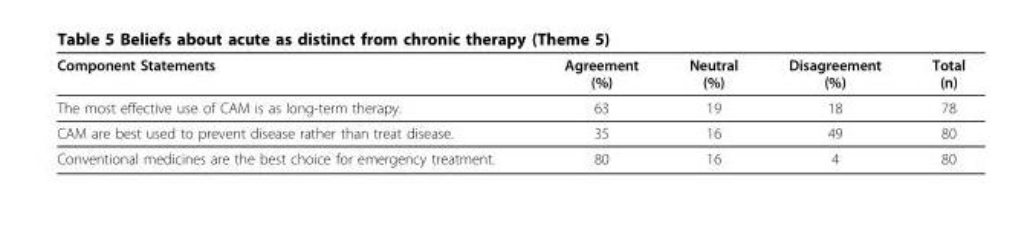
<table><thead><tr><td>Component Statements</td><td>Agreement (%)</td><td>Neutral (%)</td><td>Disagreement (%)</td><td>Total (n)</td></tr></thead><tbody><tr><td>The most effective use of CAM is as long-term therapy.</td><td>63</td><td>19</td><td>18</td><td>78</td></tr><tr><td>CAM are best used to prevent disease rather than treat disease.</td><td>35</td><td>16</td><td>49</td><td>80</td></tr><tr><td>Conventional medicines are the best choice for emergency treatment.</td><td>80</td><td>16</td><td>4</td><td>80</td></tr></tbody></table>